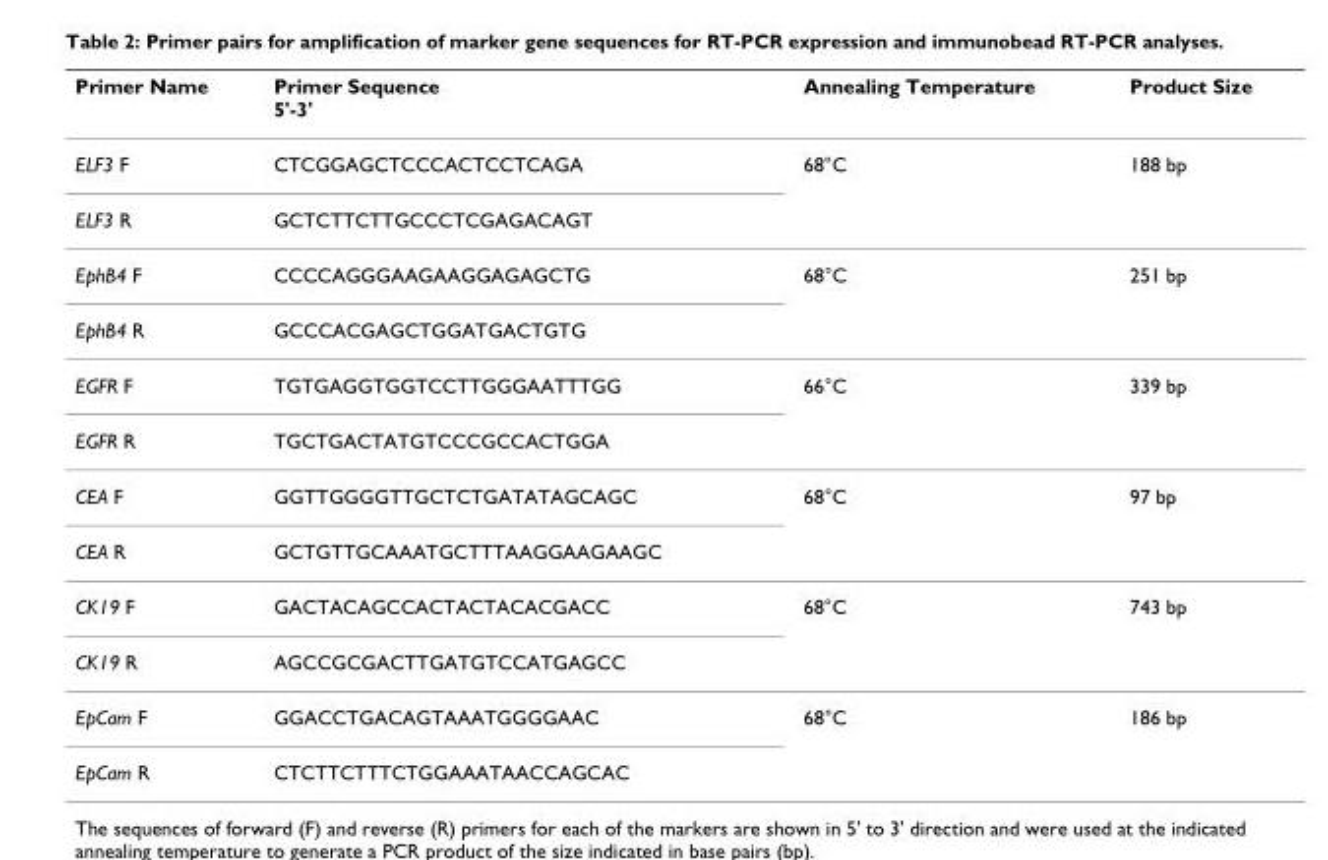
<table><thead><tr><td>Primer Name</td><td>Primer Sequence 5&#x27;-3&#x27;</td><td>Annealing Temperature</td><td>Product Size</td></tr></thead><tbody><tr><td>ELF3 F</td><td>CTCGGAGCTCCCACTCCTCAGA</td><td>68°C</td><td>188 bp</td></tr><tr><td>ELF3 R</td><td>GCTCTTCTTGCCCTCGAGACAGT</td><td></td><td></td></tr><tr><td>EphB4 F</td><td>CCCCAGGGAAGAAGGAGAGCTG</td><td>68°C</td><td>251 bp</td></tr><tr><td>EphB4 R</td><td>GCCCACGAGCTGGATGACTGTG</td><td></td><td></td></tr><tr><td>EGFR F</td><td>TGTGAGGTGGTCCTTGGGAATTTGG</td><td>66°C</td><td>339 bp</td></tr><tr><td>EGFR R</td><td>TGCTGACTATGTCCCGCCACTGGA</td><td></td><td></td></tr><tr><td>CEA F</td><td>GGTTGGGGTTGCTCTGATATAGCAGC</td><td>68°C</td><td>97 bp</td></tr><tr><td>CEA R</td><td>GCTGTTGCAAATGCTTTAAGGAAGAAGC</td><td></td><td></td></tr><tr><td>CK19 F</td><td>GACTACAGCCACTACTACACGACC</td><td>68°C</td><td>743 bp</td></tr><tr><td>CK19 R</td><td>AGCCGCGACTTGATGTCCATGAGCC</td><td></td><td></td></tr><tr><td>EpCam F</td><td>GGACCTGACAGTAAATGGGGAAC</td><td>68°C</td><td>186 bp</td></tr><tr><td>EpCam R</td><td>CTCTTCTTTCTGGAAATAACCAGCAC</td><td></td><td></td></tr></tbody></table>